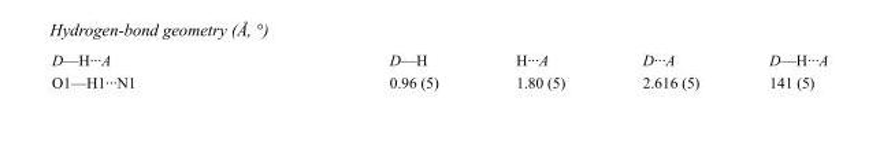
<table><tbody><tr><td>D—H···A</td><td>D—H</td><td>H···A</td><td>D···A</td><td>D—H···A</td></tr><tr><td>O1—H1···N1</td><td>0.96 (5)</td><td>1.80 (5)</td><td>2.616 (5)</td><td>141 (5)</td></tr></tbody></table>